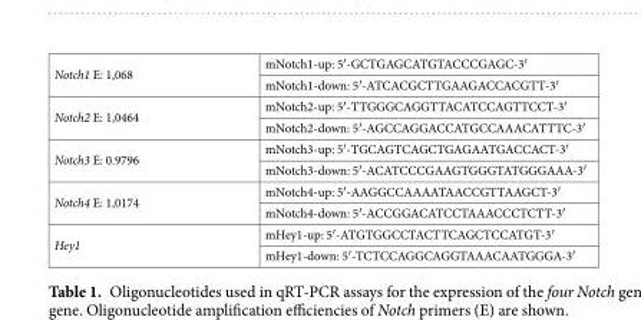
<table><tbody><tr><td rowspan="2">Notch1 E: 1,068</td><td>mNotch1-up: 5′-GCTGAGCATGTACCCGAGC-3′</td></tr><tr><td>mNotch1-down: 5′-ATCACGCTTGAAGACCACGTT-3′</td></tr><tr><td rowspan="2">Notch2 E: 1,0464</td><td>mNotch2-up: 5′-TTGGGCAGGTTACATCCAGTTCCT-3′</td></tr><tr><td>mNotch2-down: 5′-AGCCAGGACCATGCCAAACATTTC-3′</td></tr><tr><td rowspan="2">Notch3 E: 0.9796</td><td>mNotch3-up: 5′-TGCAGTCAGCTGAGAATGACCACT-3′</td></tr><tr><td>mNotch3-down: 5′-ACATCCCGAAGTGGGTATGGGAAA-3′</td></tr><tr><td rowspan="2">Notch4 E: 1,0174</td><td>mNotch4-up: 5′-AAGGCCAAAATAACCGTTAAGCT-3′</td></tr><tr><td>mNotch4-down: 5′-ACCGGACATCCTAAACCCTCTT-3′</td></tr><tr><td rowspan="2">Hey1</td><td>mHey1-up: 5′-ATGTGGCCTACTTCAGCTCCATGT-3′</td></tr><tr><td>mHey1-down: 5′-TCTCCAGGCAGGTAAACAATGGGA-3′</td></tr></tbody></table>